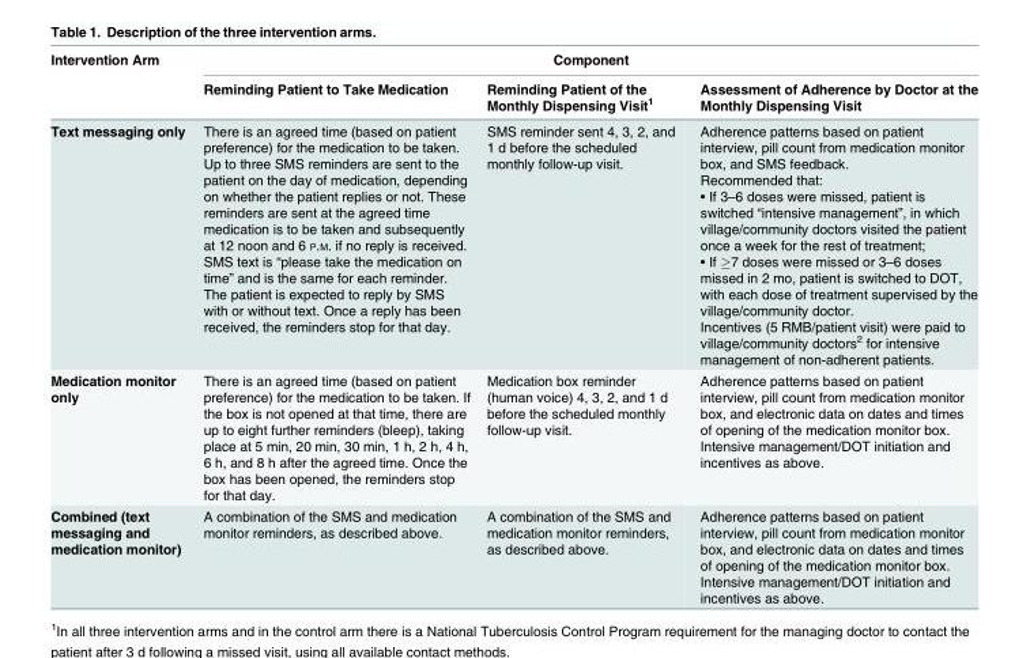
<table><thead><tr><td rowspan="2">Intervention Arm</td><td colspan="3">Component</td></tr><tr><td>Reminding Patient to Take Medication</td><td>Reminding Patient of the Monthly Dispensing Visit<sup>1</sup></td><td>Assessment of Adherence by Doctor at the Monthly Dispensing Visit</td></tr></thead><tbody><tr><td>Text messaging only</td><td>There is an agreed time (based on patient preference) for the medication to be taken. Up to three SMS reminders are sent to the patient on the day of medication, depending on whether the patient replies or not. These reminders are sent at the agreed time medication is to be taken and subsequently at 12 noon and 6 P.M. if no reply is received. SMS text is “please take the medication on time” and is the same for each reminder. The patient is expected to reply by SMS with or without text. Once a reply has been received, the reminders stop for that day.</td><td>SMS reminder sent 4, 3, 2, and 1 d before the scheduled monthly follow-up visit.</td><td>Adherence patterns based on patient interview, pill count from medication monitor box, and SMS feedback. Recommended that: • If 3–6 doses were missed, patient is switched “intensive management”, in which village/community doctors visited the patient once a week for the rest of treatment; • If ≥7 doses were missed or 3–6 doses missed in 2 mo, patient is switched to DOT, with each dose of treatment supervised by the village/community doctor. Incentives (5 RMB/patient visit) were paid to village/community doctors<sup>2</sup> for intensive management of non-adherent patients.</td></tr><tr><td>Medication monitor only</td><td>There is an agreed time (based on patient preference) for the medication to be taken. If the box is not opened at that time, there are up to eight further reminders (bleep), taking place at 5 min, 20 min, 30 min, 1 h, 2 h, 4 h, 6 h, and 8 h after the agreed time. Once the box has been opened, the reminders stop for that day.</td><td>Medication box reminder (human voice) 4, 3, 2, and 1 d before the scheduled monthly follow-up visit.</td><td>Adherence patterns based on patient interview, pill count from medication monitor box, and electronic data on dates and times of opening of the medication monitor box. Intensive management/DOT initiation and incentives as above.</td></tr><tr><td>Combined (text messaging and medication monitor)</td><td>A combination of the SMS and medication monitor reminders, as described above.</td><td>A combination of the SMS and medication monitor reminders, as described above.</td><td>Adherence patterns based on patient interview, pill count from medication monitor box, and electronic data on dates and times of opening of the medication monitor box. Intensive management/DOT initiation and incentives as above.</td></tr></tbody></table>